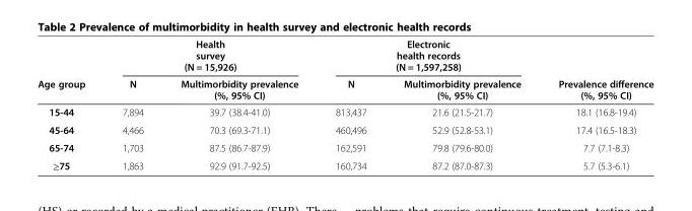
<table><thead><tr><td rowspan="2">Age group</td><td colspan="2">Health survey (N = 15,926)</td><td colspan="2">Electronic health records (N = 1,597,258)</td><td rowspan="2">Prevalence difference (%, 95% CI)</td></tr><tr><td>N</td><td>Multimorbidity prevalence (%, 95% CI)</td><td>N</td><td>Multimorbidity prevalence (%, 95% CI)</td></tr></thead><tbody><tr><td>15-44</td><td>7,894</td><td>39.7 (38.4-41.0)</td><td>813,437</td><td>21.6 (21.5-21.7)</td><td>18.1 (16.8-19.4)</td></tr><tr><td>45-64</td><td>4,466</td><td>70.3 (69.3-71.1)</td><td>460,496</td><td>52.9 (52.8-53.1)</td><td>17.4 (16.5-18.3)</td></tr><tr><td>65-74</td><td>1,703</td><td>87.5 (86.7-87.9)</td><td>162,591</td><td>79.8 (79.6-80.0)</td><td>7.7 (7.1-8.3)</td></tr><tr><td>≥75</td><td>1,863</td><td>92.9 (91.7-92.5)</td><td>160,734</td><td>87.2 (87.0-87.3)</td><td>5.7 (5.3-6.1)</td></tr></tbody></table>